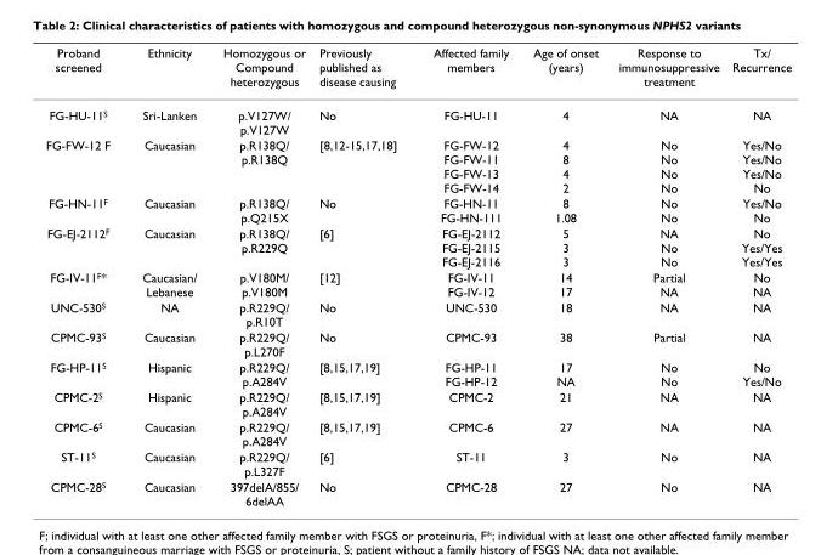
<table><thead><tr><td>Proband screened</td><td>Ethnicity</td><td>Homozygous or Compound heterozygous</td><td>Previously published as disease causing</td><td>Affected family members</td><td>Age of onset (years)</td><td>Response to immunosuppressive treatment</td><td>Tx/ Recurrence</td></tr></thead><tbody><tr><td>FG-HU-11<sup>S</sup></td><td>Sri-Lanken</td><td>p.V127W/ p.V127W</td><td>No</td><td>FG-HU-11</td><td>4</td><td>NA</td><td>NA</td></tr><tr><td>FG-FW-12 F</td><td>Caucasian</td><td>p.R138Q/ p.R138Q</td><td>[8,12-15,17,18]</td><td>FG-FW-12 FG-FW-11 FG-FW-13 FG-FW-14</td><td>4 8 4 2</td><td>No No No No</td><td>Yes/No Yes/No Yes/No No</td></tr><tr><td>FG-HN-11<sup>F</sup></td><td>Caucasian</td><td>p.R138Q/ p.Q215X</td><td>No</td><td>FG-HN-11 FG-HN-111</td><td>8 1.08</td><td>No No</td><td>Yes/No No</td></tr><tr><td>FG-EJ-2112<sup>F</sup></td><td>Caucasian</td><td>p.R138Q/ p.R229Q</td><td>[6]</td><td>FG-EJ-2112 FG-EJ-2115 FG-EJ-2116</td><td>5 3 3</td><td>NA No No</td><td>No Yes/Yes Yes/Yes</td></tr><tr><td>FG-IV-11<sup>F</sup>*</td><td>Caucasian/ Lebanese</td><td>p.V180M/ p.V180M</td><td>[12]</td><td>FG-IV-11 FG-IV-12</td><td>14 17</td><td>Partial NA</td><td>No NA</td></tr><tr><td>UNC-530<sup>S</sup></td><td>NA</td><td>p.R229Q/ p.R10T</td><td>No</td><td>UNC-530</td><td>18</td><td>NA</td><td>NA</td></tr><tr><td>CPMC-93<sup>S</sup></td><td>Caucasian</td><td>p.R229Q/ p.L270F</td><td>No</td><td>CPMC-93</td><td>38</td><td>Partial</td><td>NA</td></tr><tr><td>FG-HP-11<sup>S</sup></td><td>Hispanic</td><td>p.R229Q/ p.A284V</td><td>[8,15,17,19]</td><td>FG-HP-11 FG-HP-12</td><td>17 NA</td><td>No No</td><td>No Yes/No</td></tr><tr><td>CPMC-2<sup>S</sup></td><td>Hispanic</td><td>p.R229Q/ p.A284V</td><td>[8,15,17,19]</td><td>CPMC-2</td><td>21</td><td>NA</td><td>NA</td></tr><tr><td>CPMC-6<sup>S</sup></td><td>Caucasian</td><td>p.R229Q/ p.A284V</td><td>[8,15,17,19]</td><td>CPMC-6</td><td>27</td><td>NA</td><td>NA</td></tr><tr><td>ST-11<sup>S</sup></td><td>Caucasian</td><td>p.R229Q/ p.L327F</td><td>[6]</td><td>ST-11</td><td>3</td><td>No</td><td>NA</td></tr><tr><td>CPMC-28<sup>S</sup></td><td>Caucasian</td><td>397delA/855/ 6delAA</td><td>No</td><td>CPMC-28</td><td>27</td><td>No</td><td>NA</td></tr></tbody></table>